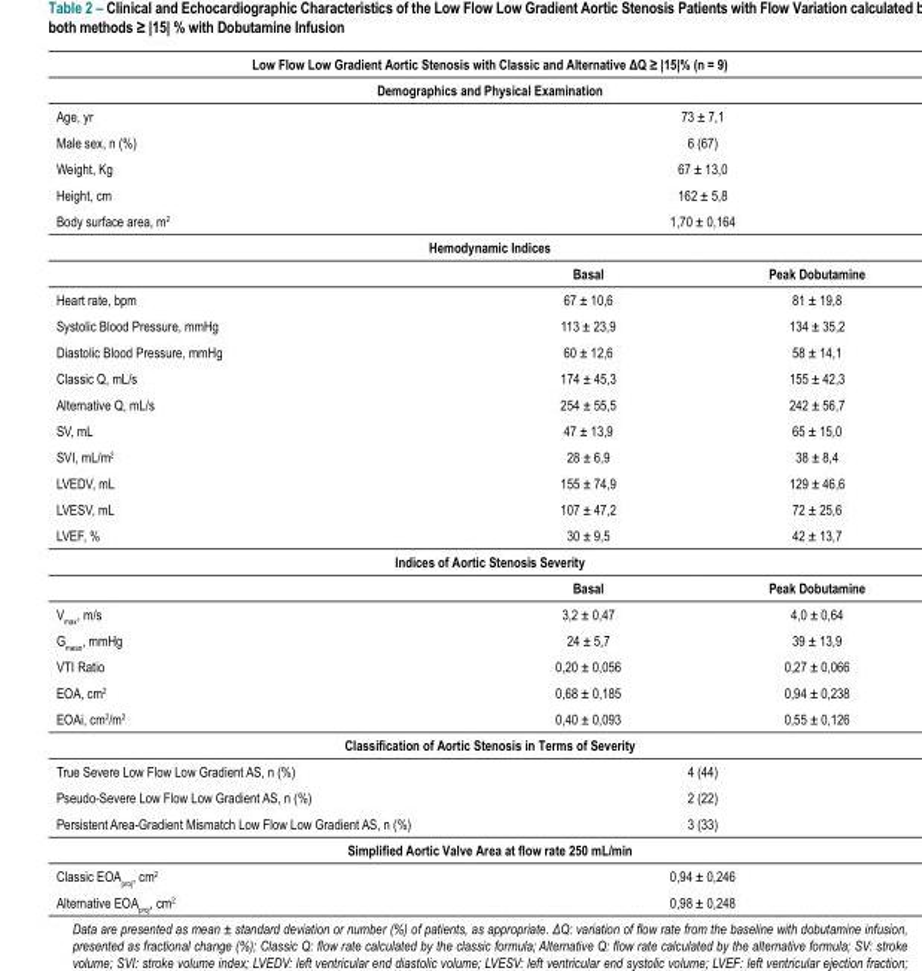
<table><tbody><tr><td colspan="3">Low Flow Low Gradient Aortic Stenosis with Classic and Alternative ΔQ ≥ |15|% (n = 9)</td></tr><tr><td colspan="3">Demographics and Physical Examination</td></tr><tr><td>Age, yr</td><td colspan="2">73 ± 7,1</td></tr><tr><td>Male sex, n (%)</td><td colspan="2">6 (67)</td></tr><tr><td>Weight, Kg</td><td colspan="2">67 ± 13,0</td></tr><tr><td>Height, cm</td><td colspan="2">162 ± 5,8</td></tr><tr><td>Body surface area, m<sup>2</sup></td><td colspan="2">1,70 ± 0,164</td></tr><tr><td colspan="3">Hemodynamic Indices</td></tr><tr><td></td><td>Basal</td><td>Peak Dobutamine</td></tr><tr><td>Heart rate, bpm</td><td>67 ± 10,6</td><td>81 ± 19,8</td></tr><tr><td>Systolic Blood Pressure, mmHg</td><td>113 ± 23,9</td><td>134 ± 35,2</td></tr><tr><td>Diastolic Blood Pressure, mmHg</td><td>60 ± 12,6</td><td>58 ± 14,1</td></tr><tr><td>Classic Q, mL/s</td><td>174 ± 45,3</td><td>155 ± 42,3</td></tr><tr><td>Alternative Q, mL/s</td><td>254 ± 55,5</td><td>242 ± 56,7</td></tr><tr><td>SV, mL</td><td>47 ± 13,9</td><td>65 ± 15,0</td></tr><tr><td>SVI, mL/m<sup>2</sup></td><td>28 ± 6,9</td><td>38 ± 8,4</td></tr><tr><td>LVEDV, mL</td><td>155 ± 74,9</td><td>129 ± 46,6</td></tr><tr><td>LVESV, mL</td><td>107 ± 47,2</td><td>72 ± 25,6</td></tr><tr><td>LVEF, %</td><td>30 ± 9,5</td><td>42 ± 13,7</td></tr><tr><td colspan="3">Indices of Aortic Stenosis Severity</td></tr><tr><td></td><td>Basal</td><td>Peak Dobutamine</td></tr><tr><td>V<sub>max</sub>, m/s</td><td>3,2 ± 0,47</td><td>4,0 ± 0,64</td></tr><tr><td>G<sub>mean</sub>, mmHg</td><td>24 ± 5,7</td><td>39 ± 13,9</td></tr><tr><td>VTI Ratio</td><td>0,20 ± 0,056</td><td>0,27 ± 0,066</td></tr><tr><td>EOA, cm<sup>2</sup></td><td>0,68 ± 0,185</td><td>0,94 ± 0,238</td></tr><tr><td>EOAi, cm<sup>2</sup>/m<sup>2</sup></td><td>0,40 ± 0,093</td><td>0,55 ± 0,126</td></tr><tr><td colspan="3">Classification of Aortic Stenosis in Terms of Severity</td></tr><tr><td>True Severe Low Flow Low Gradient AS, n (%)</td><td colspan="2">4 (44)</td></tr><tr><td>Pseudo-Severe Low Flow Low Gradient AS, n (%)</td><td colspan="2">2 (22)</td></tr><tr><td>Persistent Area-Gradient Mismatch Low Flow Low Gradient AS, n (%)</td><td colspan="2">3 (33)</td></tr><tr><td colspan="3">Simplified Aortic Valve Area at flow rate 250 mL/min</td></tr><tr><td>Classic EOA<sub>proj</sub>, cm<sup>2</sup></td><td colspan="2">0,94 ± 0,246</td></tr><tr><td>Alternative EOA<sub>proj</sub>, cm<sup>2</sup></td><td colspan="2">0,98 ± 0,248</td></tr></tbody></table>